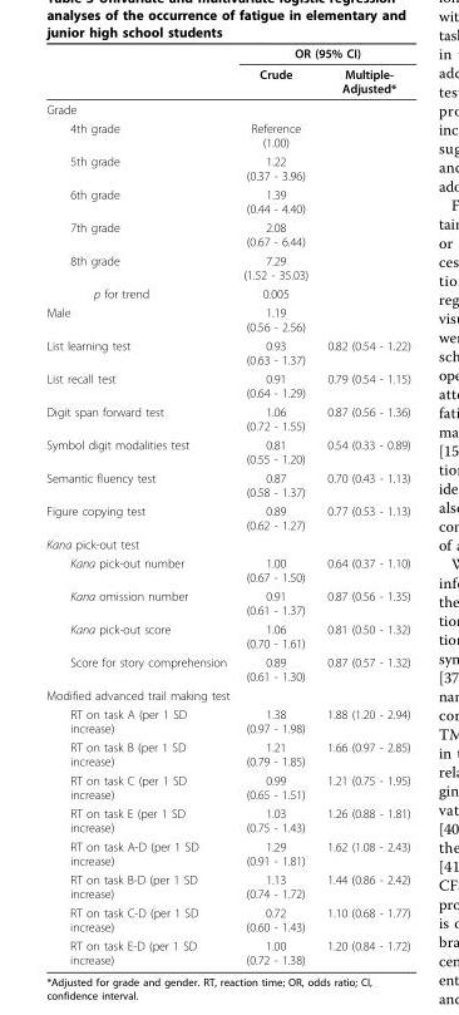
<table><thead><tr><td rowspan="2"></td><td colspan="2">OR (95% CI)</td></tr><tr><td>Crude</td><td>Multiple- Adjusted*</td></tr></thead><tbody><tr><td colspan="3">Grade</td></tr><tr><td>4th grade</td><td>Reference (1.00)</td><td></td></tr><tr><td>5th grade</td><td>1.22 (0.37 - 3.96)</td><td></td></tr><tr><td>6th grade</td><td>1.39 (0.44 - 4.40)</td><td></td></tr><tr><td>7th grade</td><td>2.08 (0.67 - 6.44)</td><td></td></tr><tr><td>8th grade</td><td>7.29 (1.52 - 35.03)</td><td></td></tr><tr><td>p for trend</td><td>0.005</td><td></td></tr><tr><td>Male</td><td>1.19 (0.56 - 2.56)</td><td></td></tr><tr><td>List learning test</td><td>0.93 (0.63 - 1.37)</td><td>0.82 (0.54 - 1.22)</td></tr><tr><td>List recall test</td><td>0.91 (0.64 - 1.29)</td><td>0.79 (0.54 - 1.15)</td></tr><tr><td>Digit span forward test</td><td>1.06 (0.72 - 1.55)</td><td>0.87 (0.56 - 1.36)</td></tr><tr><td>Symbol digit modalities test</td><td>0.81 (0.55 - 1.20)</td><td>0.54 (0.33 - 0.89)</td></tr><tr><td>Semantic fluency test</td><td>0.87 (0.58 - 1.37)</td><td>0.70 (0.43 - 1.13)</td></tr><tr><td>Figure copying test</td><td>0.89 (0.62 - 1.27)</td><td>0.77 (0.53 - 1.13)</td></tr><tr><td colspan="3">Kana pick-out test</td></tr><tr><td>Kana pick-out number</td><td>1.00 (0.67 - 1.50)</td><td>0.64 (0.37 - 1.10)</td></tr><tr><td>Kana omission number</td><td>0.91 (0.61 - 1.37)</td><td>0.87 (0.56 - 1.35)</td></tr><tr><td>Kana pick-out score</td><td>1.06 (0.70 - 1.61)</td><td>0.81 (0.50 - 1.32)</td></tr><tr><td>Score for story comprehension</td><td>0.89 (0.61 - 1.30)</td><td>0.87 (0.57 - 1.32)</td></tr><tr><td colspan="3">Modified advanced trail making test</td></tr><tr><td>RT on task A (per 1 SD increase)</td><td>1.38 (0.97 - 1.98)</td><td>1.88 (1.20 - 2.94)</td></tr><tr><td>RT on task B (per 1 SD increase)</td><td>1.21 (0.79 - 1.85)</td><td>1.66 (0.97 - 2.85)</td></tr><tr><td>RT on task C (per 1 SD increase)</td><td>0.99 (0.65 - 1.51)</td><td>1.21 (0.75 - 1.95)</td></tr><tr><td>RT on task E (per 1 SD increase)</td><td>1.03 (0.75 - 1.43)</td><td>1.26 (0.88 - 1.81)</td></tr><tr><td>RT on task A-D (per 1 SD increase)</td><td>1.29 (0.91 - 1.81)</td><td>1.62 (1.08 - 2.43)</td></tr><tr><td>RT on task B-D (per 1 SD increase)</td><td>1.13 (0.74 - 1.72)</td><td>1.44 (0.86 - 2.42)</td></tr><tr><td>RT on task C-D (per 1 SD increase)</td><td>0.72 (0.60 - 1.43)</td><td>1.10 (0.68 - 1.77)</td></tr><tr><td>RT on task E-D (per 1 SD increase)</td><td>1.00 (0.72 - 1.38)</td><td>1.20 (0.84 - 1.72)</td></tr></tbody></table>